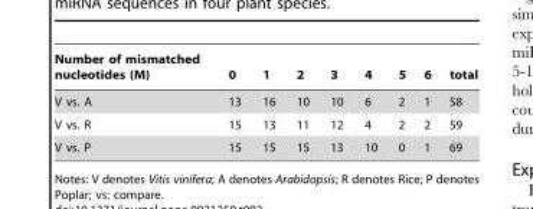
<table><thead><tr><td>Number of mismatched nucleotides (M)</td><td>0</td><td>1</td><td>2</td><td>3</td><td>4</td><td>5</td><td>6</td><td>total</td></tr></thead><tbody><tr><td>V vs. A</td><td>13</td><td>16</td><td>10</td><td>10</td><td>6</td><td>2</td><td>1</td><td>58</td></tr><tr><td>V vs. R</td><td>15</td><td>13</td><td>11</td><td>12</td><td>4</td><td>2</td><td>2</td><td>59</td></tr><tr><td>V vs. P</td><td>15</td><td>15</td><td>15</td><td>13</td><td>10</td><td>0</td><td>1</td><td>69</td></tr></tbody></table>